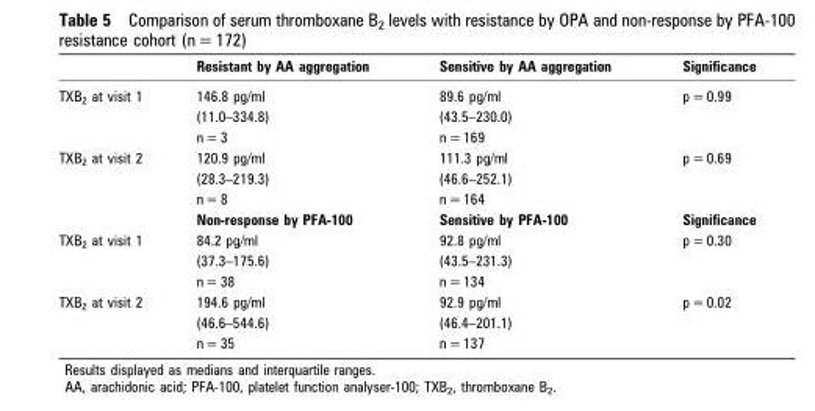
<table><thead><tr><td></td><td>Resistant by AA aggregation</td><td>Sensitive by AA aggregation</td><td>Significance</td></tr></thead><tbody><tr><td rowspan="3">TXB<sub>2</sub> at visit 1</td><td>146.8 pg/ml</td><td>89.6 pg/ml</td><td rowspan="3">p = 0.99</td></tr><tr><td>(11.0–334.8)</td><td>(43.5–230.0)</td></tr><tr><td>n = 3</td><td>n = 169</td></tr><tr><td rowspan="4">TXB<sub>2</sub> at visit 2</td><td>120.9 pg/ml</td><td>111.3 pg/ml</td><td rowspan="3">p = 0.69</td></tr><tr><td>(28.3–219.3)</td><td>(46.6–252.1)</td></tr><tr><td>n = 8</td><td>n = 164</td></tr><tr><td>Non-response by PFA-100</td><td>Sensitive by PFA-100</td><td>Significance</td></tr><tr><td rowspan="3">TXB<sub>2</sub> at visit 1</td><td>84.2 pg/ml</td><td>92.8 pg/ml</td><td rowspan="3">p = 0.30</td></tr><tr><td>(37.3–175.6)</td><td>(43.5–231.3)</td></tr><tr><td>n = 38</td><td>n = 134</td></tr><tr><td rowspan="3">TXB<sub>2</sub> at visit 2</td><td>194.6 pg/ml</td><td>92.9 pg/ml</td><td rowspan="2">p = 0.02</td></tr><tr><td>(46.6–544.6)</td><td>(46.4–201.1)</td></tr><tr><td>n = 35</td><td>n = 137</td><td></td></tr></tbody></table>